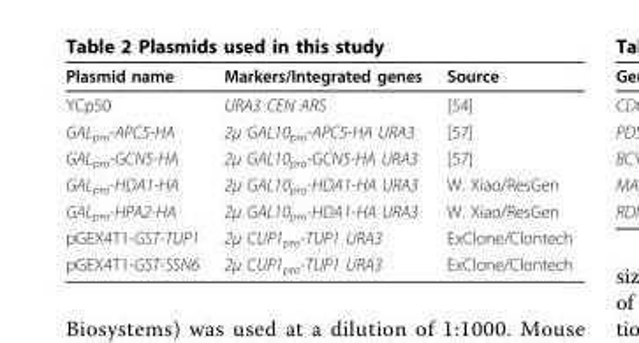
<table><thead><tr><td>Plasmid name</td><td>Markers/Integrated genes</td><td>Source</td></tr></thead><tbody><tr><td>YCp50</td><td>URA3 CEN ARS</td><td>[54]</td></tr><tr><td>GAL<sub>pro</sub>-APC5-HA</td><td>2μ GAL10<sub>pro</sub>-APC5-HA URA3</td><td>[57]</td></tr><tr><td>GAL<sub>pro</sub>-GCN5-HA</td><td>2μ GAL10<sub>pro</sub>-GCN5-HA URA3</td><td>[57]</td></tr><tr><td>GAL<sub>pro</sub>-HDA1-HA</td><td>2μ GAL10<sub>pro</sub>-HDA1-HA URA3</td><td>W. Xiao/ResGen</td></tr><tr><td>GAL<sub>pro</sub>-HPA2-HA</td><td>2μ GAL10<sub>pro</sub>-HDA1-HA URA3</td><td>W. Xiao/ResGen</td></tr><tr><td>pGEX4T1-GST-TUP1</td><td>2μ CUP1<sub>pro</sub>-TUP1 URA3</td><td>ExClone/Clontech</td></tr><tr><td>pGEX4T1-GST-SSN6</td><td>2μ CUP1<sub>pro</sub>-TUP1 URA3</td><td>ExClone/Clontech</td></tr></tbody></table>